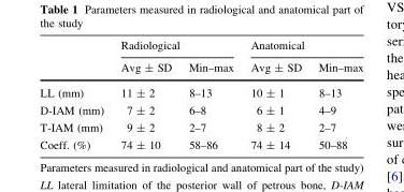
<table><thead><tr><td rowspan="2"></td><td colspan="2">Radiological</td><td colspan="2">Anatomical</td></tr><tr><td>Avg ± SD</td><td>Min–max</td><td>Avg ± SD</td><td>Min–max</td></tr></thead><tbody><tr><td>LL (mm)</td><td>11 ± 2</td><td>8–13</td><td>10 ± 1</td><td>8–13</td></tr><tr><td>D-IAM (mm)</td><td>7 ± 2</td><td>6–8</td><td>6 ± 1</td><td>4–9</td></tr><tr><td>T-IAM (mm)</td><td>9 ± 2</td><td>2–7</td><td>8 ± 2</td><td>2–7</td></tr><tr><td>Coeff. (%)</td><td>74 ± 10</td><td>58–86</td><td>74 ± 14</td><td>50–88</td></tr></tbody></table>